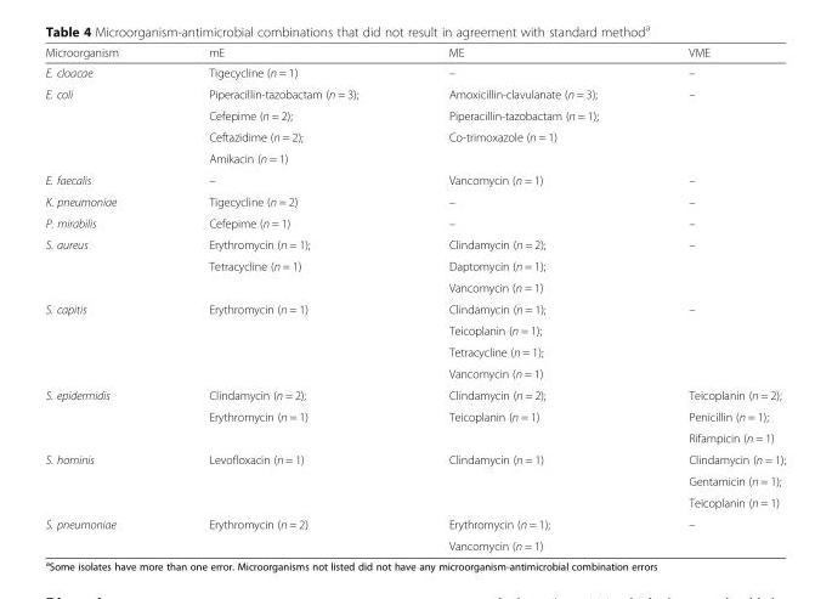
<table><thead><tr><td>Microorganism</td><td>mE</td><td>ME</td><td>VME</td></tr></thead><tbody><tr><td>E. cloacae</td><td>Tigecycline (n = 1)</td><td>–</td><td>–</td></tr><tr><td rowspan="4">E. coli</td><td>Piperacillin-tazobactam (n = 3);</td><td>Amoxicillin-clavulanate (n = 3);</td><td rowspan="4">–</td></tr><tr><td>Cefepime (n = 2);</td><td>Piperacillin-tazobactam (n = 1);</td></tr><tr><td>Ceftazidime (n = 2);</td><td>Co-trimoxazole (n = 1)</td></tr><tr><td>Amikacin (n = 1)</td><td></td></tr><tr><td>E. faecalis</td><td>–</td><td>Vancomycin (n = 1)</td><td>–</td></tr><tr><td>K. pneumoniae</td><td>Tigecycline (n = 2)</td><td>–</td><td>–</td></tr><tr><td>P. mirabilis</td><td>Cefepime (n = 1)</td><td>–</td><td>–</td></tr><tr><td rowspan="3">S. aureus</td><td>Erythromycin (n = 1);</td><td>Clindamycin (n = 2);</td><td rowspan="3">–</td></tr><tr><td rowspan="2">Tetracycline (n = 1)</td><td>Daptomycin (n = 1);</td></tr><tr><td>Vancomycin (n = 1)</td></tr><tr><td rowspan="4">S. capitis</td><td rowspan="4">Erythromycin (n = 1)</td><td>Clindamycin (n = 1);</td><td rowspan="4">–</td></tr><tr><td>Teicoplanin (n = 1);</td></tr><tr><td>Tetracycline (n = 1);</td></tr><tr><td>Vancomycin (n = 1)</td></tr><tr><td rowspan="3">S. epidermidis</td><td>Clindamycin (n = 2);</td><td>Clindamycin (n = 2);</td><td>Teicoplanin (n = 2);</td></tr><tr><td rowspan="2">Erythromycin (n = 1)</td><td rowspan="2">Teicoplanin (n = 1)</td><td>Penicillin (n = 1);</td></tr><tr><td>Rifampicin (n = 1)</td></tr><tr><td rowspan="3">S. hominis</td><td rowspan="3">Levofloxacin (n = 1)</td><td rowspan="3">Clindamycin (n = 1)</td><td>Clindamycin (n = 1);</td></tr><tr><td>Gentamicin (n = 1);</td></tr><tr><td>Teicoplanin (n = 1)</td></tr><tr><td rowspan="2">S. pneumoniae</td><td rowspan="2">Erythromycin (n = 2)</td><td>Erythromycin (n = 1);</td><td rowspan="2">–</td></tr><tr><td>Vancomycin (n = 1)</td></tr></tbody></table>